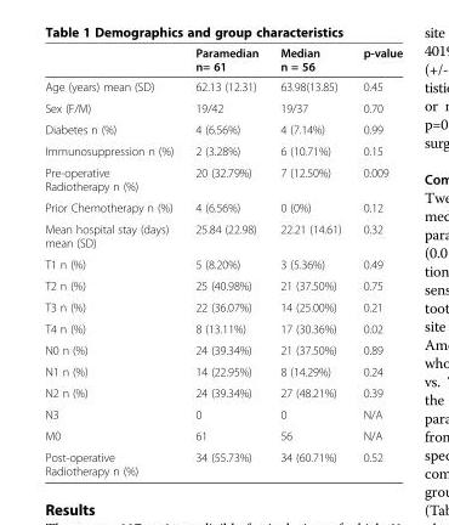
<table><thead><tr><td></td><td>Paramedian n= 61</td><td>Median n = 56</td><td>p-value</td></tr></thead><tbody><tr><td>Age (years) mean (SD)</td><td>62.13 (12.31)</td><td>63.98(13.85)</td><td>0.45</td></tr><tr><td>Sex (F/M)</td><td>19/42</td><td>19/37</td><td>0.70</td></tr><tr><td>Diabetes n (%)</td><td>4 (6.56%)</td><td>4 (7.14%)</td><td>0.99</td></tr><tr><td>Immunosuppression n (%)</td><td>2 (3.28%)</td><td>6 (10.71%)</td><td>0.15</td></tr><tr><td>Pre-operative Radiotherapy n (%)</td><td>20 (32.79%)</td><td>7 (12.50%)</td><td>0.009</td></tr><tr><td>Prior Chemotherapy n (%)</td><td>4 (6.56%)</td><td>0 (0%)</td><td>0.12</td></tr><tr><td>Mean hospital stay (days) mean (SD)</td><td>25.84 (22.98)</td><td>22.21 (14.61)</td><td>0.32</td></tr><tr><td>T1 n (%)</td><td>5 (8.20%)</td><td>3 (5.36%)</td><td>0.49</td></tr><tr><td>T2 n (%)</td><td>25 (40.98%)</td><td>21 (37.50%)</td><td>0.75</td></tr><tr><td>T3 n (%)</td><td>22 (36.07%)</td><td>14 (25.00%)</td><td>0.21</td></tr><tr><td>T4 n (%)</td><td>8 (13.11%)</td><td>17 (30.36%)</td><td>0.02</td></tr><tr><td>N0 n (%)</td><td>24 (39.34%)</td><td>21 (37.50%)</td><td>0.89</td></tr><tr><td>N1 n (%)</td><td>14 (22.95%)</td><td>8 (14.29%)</td><td>0.24</td></tr><tr><td>N2 n (%)</td><td>24 (39.34%)</td><td>27 (48.21%)</td><td>0.39</td></tr><tr><td>N3</td><td>0</td><td>0</td><td>N/A</td></tr><tr><td>M0</td><td>61</td><td>56</td><td>N/A</td></tr><tr><td>Post-operative Radiotherapy n (%)</td><td>34 (55.73%)</td><td>34 (60.71%)</td><td>0.52</td></tr></tbody></table>